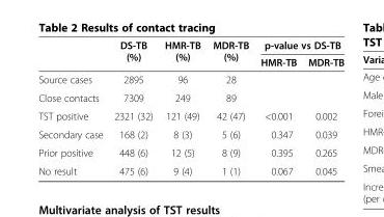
<table><thead><tr><td rowspan="2"></td><td rowspan="2">DS-TB (%)</td><td rowspan="2">HMR-TB (%)</td><td rowspan="2">MDR-TB (%)</td><td colspan="2">p-value vs DS-TB</td></tr><tr><td>HMR-TB</td><td>MDR-TB</td></tr></thead><tbody><tr><td>Source cases</td><td>2895</td><td>96</td><td>28</td><td></td><td></td></tr><tr><td>Close contacts</td><td>7309</td><td>249</td><td>89</td><td></td><td></td></tr><tr><td>TST positive</td><td>2321 (32)</td><td>121 (49)</td><td>42 (47)</td><td>&lt;0.001</td><td>0.002</td></tr><tr><td>Secondary case</td><td>168 (2)</td><td>8 (3)</td><td>5 (6)</td><td>0.347</td><td>0.039</td></tr><tr><td>Prior positive</td><td>448 (6)</td><td>12 (5)</td><td>8 (9)</td><td>0.395</td><td>0.265</td></tr><tr><td>No result</td><td>475 (6)</td><td>9 (4)</td><td>1 (1)</td><td>0.067</td><td>0.045</td></tr></tbody></table>